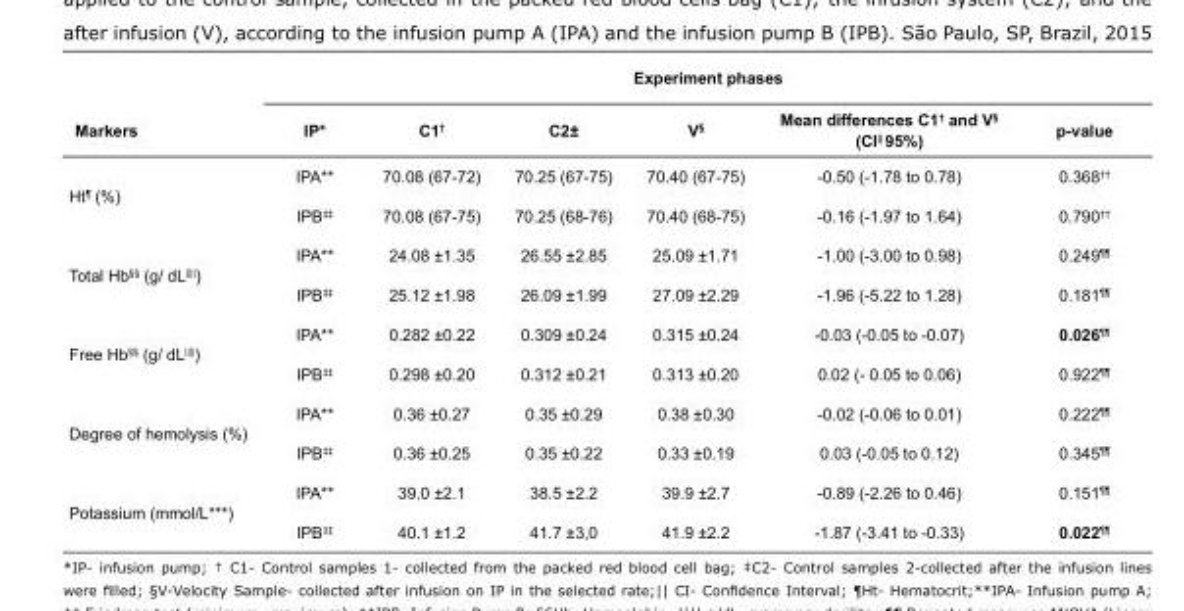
<table><thead><tr><td rowspan="2">Markers</td><td colspan="6">Experiment phases</td></tr><tr><td>IP*</td><td>C1<sup>†</sup></td><td>C2±</td><td>V<sup>§</sup></td><td>Mean differences C1<sup>†</sup> and V<sup>§</sup> (CI<sup>||</sup> 95%)</td><td>p-value</td></tr></thead><tbody><tr><td rowspan="2">Ht<sup>¶</sup> (%)</td><td>IPA**</td><td>70.08 (67-72)</td><td>70.25 (67-75)</td><td>70.40 (67-75)</td><td>-0.50 (-1.78 to 0.78)</td><td>0.368<sup>††</sup></td></tr><tr><td>IPB<sup>‡‡</sup></td><td>70.08 (67-75)</td><td>70.25 (68-76)</td><td>70.40 (68-75)</td><td>-0.16 (-1.97 to 1.64)</td><td>0.790<sup>††</sup></td></tr><tr><td rowspan="2">Total Hb<sup>§§</sup> (g/ dL<sup>||||</sup>)</td><td>IPA**</td><td>24.08 ±1.35</td><td>26.55 ±2.85</td><td>25.09 ±1.71</td><td>-1.00 (-3.00 to 0.98)</td><td>0.249<sup>¶¶</sup></td></tr><tr><td>IPB<sup>‡‡</sup></td><td>25.12 ±1.98</td><td>26.09 ±1.99</td><td>27.09 ±2.29</td><td>-1.96 (-5.22 to 1.28)</td><td>0.181<sup>¶¶</sup></td></tr><tr><td rowspan="2">Free Hb<sup>§§</sup> (g/ dL<sup>||||</sup>)</td><td>IPA**</td><td>0.282 ±0.22</td><td>0.309 ±0.24</td><td>0.315 ±0.24</td><td>-0.03 (-0.05 to -0.07)</td><td>0.026<sup>¶¶</sup></td></tr><tr><td>IPB<sup>‡‡</sup></td><td>0.298 ±0.20</td><td>0.312 ±0.21</td><td>0.313 ±0.20</td><td>0.02 (- 0.05 to 0.06)</td><td>0.922<sup>¶¶</sup></td></tr><tr><td rowspan="2">Degree of hemolysis (%)</td><td>IPA**</td><td>0.36 ±0.27</td><td>0.35 ±0.29</td><td>0.38 ±0.30</td><td>-0.02 (-0.06 to 0.01)</td><td>0.222<sup>¶¶</sup></td></tr><tr><td>IPB<sup>‡‡</sup></td><td>0.36 ±0.25</td><td>0.35 ±0.22</td><td>0.33 ±0.19</td><td>0.03 (-0.05 to 0.12)</td><td>0.345<sup>¶¶</sup></td></tr><tr><td rowspan="2">Potassium (mmol/L***)</td><td>IPA**</td><td>39.0 ±2.1</td><td>38.5 ±2.2</td><td>39.9 ±2.7</td><td>-0.89 (-2.26 to 0.46)</td><td>0.151<sup>¶¶</sup></td></tr><tr><td>IPB<sup>‡‡</sup></td><td>40.1 ±1.2</td><td>41.7 ±3,0</td><td>41.9 ±2.2</td><td>-1.87 (-3.41 to -0.33)</td><td>0.022<sup>¶¶</sup></td></tr></tbody></table>